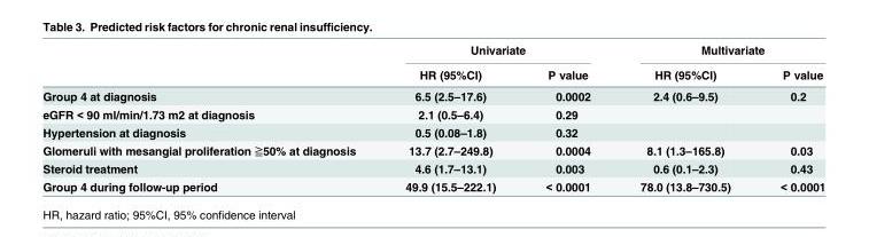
<table><thead><tr><td rowspan="2"></td><td colspan="2">Univariate</td><td colspan="2">Multivariate</td></tr><tr><td>HR (95%CI)</td><td>P value</td><td>HR (95%CI)</td><td>P value</td></tr></thead><tbody><tr><td>Group 4 at diagnosis</td><td>6.5 (2.5–17.6)</td><td>0.0002</td><td>2.4 (0.6–9.5)</td><td>0.2</td></tr><tr><td>eGFR &lt; 90 ml/min/1.73 m2 at diagnosis</td><td>2.1 (0.5–6.4)</td><td>0.29</td><td></td><td></td></tr><tr><td>Hypertension at diagnosis</td><td>0.5 (0.08–1.8)</td><td>0.32</td><td></td><td></td></tr><tr><td>Glomeruli with mesangial proliferation ≧50% at diagnosis</td><td>13.7 (2.7–249.8)</td><td>0.0004</td><td>8.1 (1.3–165.8)</td><td>0.03</td></tr><tr><td>Steroid treatment</td><td>4.6 (1.7–13.1)</td><td>0.003</td><td>0.6 (0.1–2.3)</td><td>0.43</td></tr><tr><td>Group 4 during follow-up period</td><td>49.9 (15.5–222.1)</td><td>&lt; 0.0001</td><td>78.0 (13.8–730.5)</td><td>&lt; 0.0001</td></tr></tbody></table>